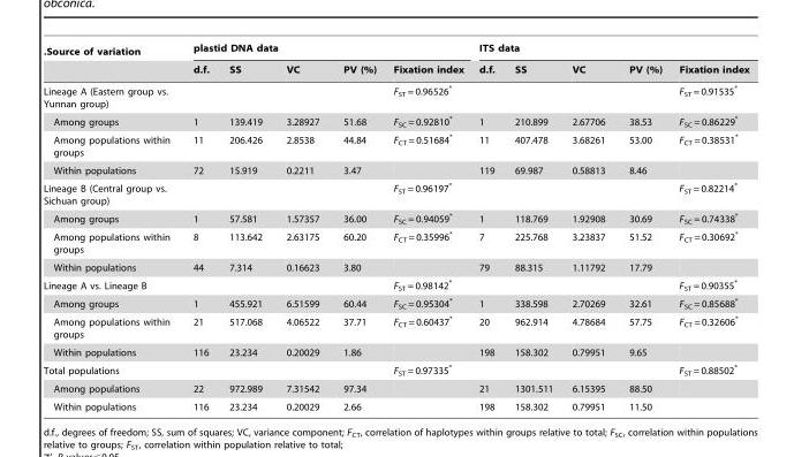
<table><thead><tr><td rowspan="2">.Source of variation</td><td colspan="5">plastid DNA data</td><td colspan="5">ITS data</td></tr><tr><td>d.f.</td><td>SS</td><td>VC</td><td>PV (%)</td><td>Fixation index</td><td>d.f.</td><td>SS</td><td>VC</td><td>PV (%)</td><td>Fixation index</td></tr></thead><tbody><tr><td>Lineage A (Eastern group vs. Yunnan group)</td><td></td><td></td><td></td><td></td><td>F<sub>ST</sub> = 0.96526*</td><td></td><td></td><td></td><td></td><td>F<sub>ST</sub> = 0.91535*</td></tr><tr><td>Among groups</td><td>1</td><td>139.419</td><td>3.28927</td><td>51.68</td><td>F<sub>SC</sub> = 0.92810*</td><td>1</td><td>210.899</td><td>2.67706</td><td>38.53</td><td>F<sub>SC</sub> = 0.86229*</td></tr><tr><td>Among populations within groups</td><td>11</td><td>206.426</td><td>2.8538</td><td>44.84</td><td>F<sub>CT</sub> = 0.51684*</td><td>11</td><td>407.478</td><td>3.68261</td><td>53.00</td><td>F<sub>CT</sub> = 0.38531*</td></tr><tr><td>Within populations</td><td>72</td><td>15.919</td><td>0.2211</td><td>3.47</td><td></td><td>119</td><td>69.987</td><td>0.58813</td><td>8.46</td><td></td></tr><tr><td>Lineage B (Central group vs. Sichuan group)</td><td></td><td></td><td></td><td></td><td>F<sub>ST</sub> = 0.96197*</td><td></td><td></td><td></td><td></td><td>F<sub>ST</sub> = 0.82214*</td></tr><tr><td>Among groups</td><td>1</td><td>57.581</td><td>1.57357</td><td>36.00</td><td>F<sub>SC</sub> = 0.94059*</td><td>1</td><td>118.769</td><td>1.92908</td><td>30.69</td><td>F<sub>SC</sub> = 0.74338*</td></tr><tr><td>Among populations within groups</td><td>8</td><td>113.642</td><td>2.63175</td><td>60.20</td><td>F<sub>CT</sub> = 0.35996*</td><td>7</td><td>225.768</td><td>3.23837</td><td>51.52</td><td>F<sub>CT</sub> = 0.30692*</td></tr><tr><td>Within populations</td><td>44</td><td>7.314</td><td>0.16623</td><td>3.80</td><td></td><td>79</td><td>88.315</td><td>1.11792</td><td>17.79</td><td></td></tr><tr><td>Lineage A vs. Lineage B</td><td></td><td></td><td></td><td></td><td>F<sub>ST</sub> = 0.98142*</td><td></td><td></td><td></td><td></td><td>F<sub>ST</sub> = 0.90355*</td></tr><tr><td>Among groups</td><td>1</td><td>455.921</td><td>6.51599</td><td>60.44</td><td>F<sub>SC</sub> = 0.95304*</td><td>1</td><td>338.598</td><td>2.70269</td><td>32.61</td><td>F<sub>SC</sub> = 0.85688*</td></tr><tr><td>Among populations within groups</td><td>21</td><td>517.068</td><td>4.06522</td><td>37.71</td><td>F<sub>CT</sub> = 0.60437*</td><td>20</td><td>962.914</td><td>4.78684</td><td>57.75</td><td>F<sub>CT</sub> = 0.32606*</td></tr><tr><td>Within populations</td><td>116</td><td>23.234</td><td>0.20029</td><td>1.86</td><td></td><td>198</td><td>158.302</td><td>0.79951</td><td>9.65</td><td></td></tr><tr><td>Total populations</td><td></td><td></td><td></td><td></td><td>F<sub>ST</sub> = 0.97335*</td><td></td><td></td><td></td><td></td><td>F<sub>ST</sub> = 0.88502*</td></tr><tr><td>Among populations</td><td>22</td><td>972.989</td><td>7.31542</td><td>97.34</td><td></td><td>21</td><td>1301.511</td><td>6.15395</td><td>88.50</td><td></td></tr><tr><td>Within populations</td><td>116</td><td>23.234</td><td>0.20029</td><td>2.66</td><td></td><td>198</td><td>158.302</td><td>0.79951</td><td>11.50</td><td></td></tr></tbody></table>